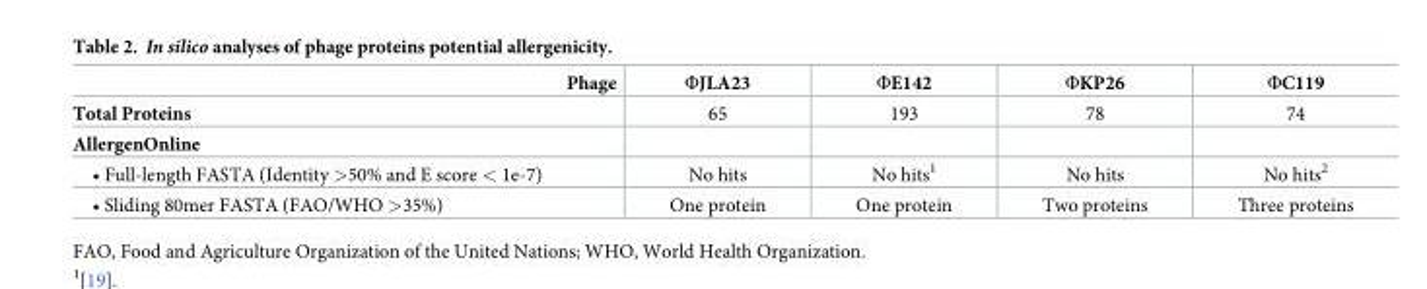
<table><thead><tr><td>Phage</td><td>ΦJLA23</td><td>ΦE142</td><td>ΦKP26</td><td>ΦC119</td></tr></thead><tbody><tr><td>Total Proteins</td><td>65</td><td>193</td><td>78</td><td>74</td></tr><tr><td colspan="5">AllergenOnline</td></tr><tr><td>• Full-length FASTA (Identity &gt;50% and E score &lt; 1e-7)</td><td>No hits</td><td>No hits<sup>1</sup></td><td>No hits</td><td>No hits<sup>2</sup></td></tr><tr><td>• Sliding 80mer FASTA (FAO/WHO &gt;35%)</td><td>One protein</td><td>One protein</td><td>Two proteins</td><td>Three proteins</td></tr></tbody></table>